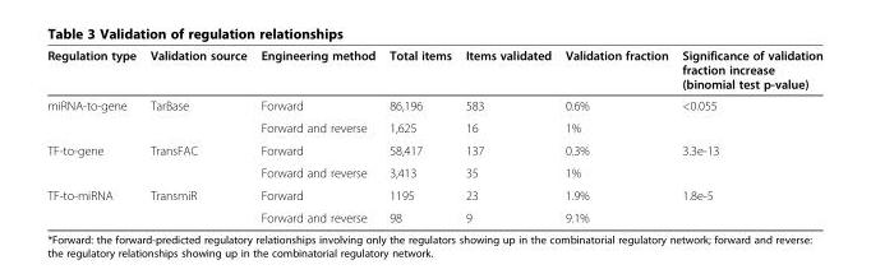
<table><thead><tr><td>Regulation type</td><td>Validation source</td><td>Engineering method</td><td>Total items</td><td>Items validated</td><td>Validation fraction</td><td>Significance of validation fraction increase (binomial test p-value)</td></tr></thead><tbody><tr><td rowspan="2">miRNA-to-gene</td><td>TarBase</td><td>Forward</td><td>86,196</td><td>583</td><td>0.6%</td><td>&lt;0.055</td></tr><tr><td></td><td>Forward and reverse</td><td>1,625</td><td>16</td><td>1%</td><td></td></tr><tr><td rowspan="2">TF-to-gene</td><td>TransFAC</td><td>Forward</td><td>58,417</td><td>137</td><td>0.3%</td><td>3.3e-13</td></tr><tr><td></td><td>Forward and reverse</td><td>3,413</td><td>35</td><td>1%</td><td></td></tr><tr><td rowspan="2">TF-to-miRNA</td><td>TransmiR</td><td>Forward</td><td>1195</td><td>23</td><td>1.9%</td><td>1.8e-5</td></tr><tr><td></td><td>Forward and reverse</td><td>98</td><td>9</td><td>9.1%</td><td></td></tr></tbody></table>